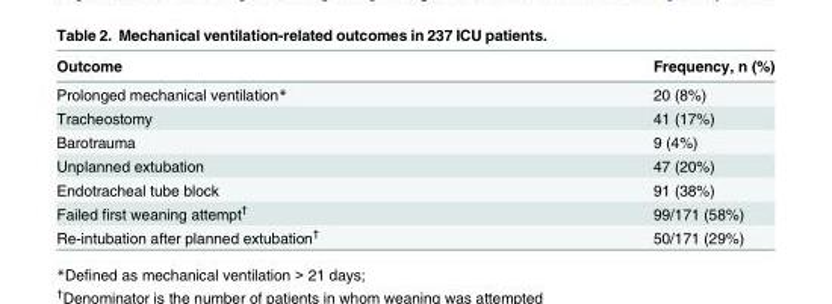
<table><thead><tr><td>Outcome</td><td>Frequency, n (%)</td></tr></thead><tbody><tr><td>Prolonged mechanical ventilation*</td><td>20 (8%)</td></tr><tr><td>Tracheostomy</td><td>41 (17%)</td></tr><tr><td>Barotrauma</td><td>9 (4%)</td></tr><tr><td>Unplanned extubation</td><td>47 (20%)</td></tr><tr><td>Endotracheal tube block</td><td>91 (38%)</td></tr><tr><td>Failed first weaning attempt<sup>†</sup></td><td>99/171 (58%)</td></tr><tr><td>Re-intubation after planned extubation<sup>†</sup></td><td>50/171 (29%)</td></tr></tbody></table>